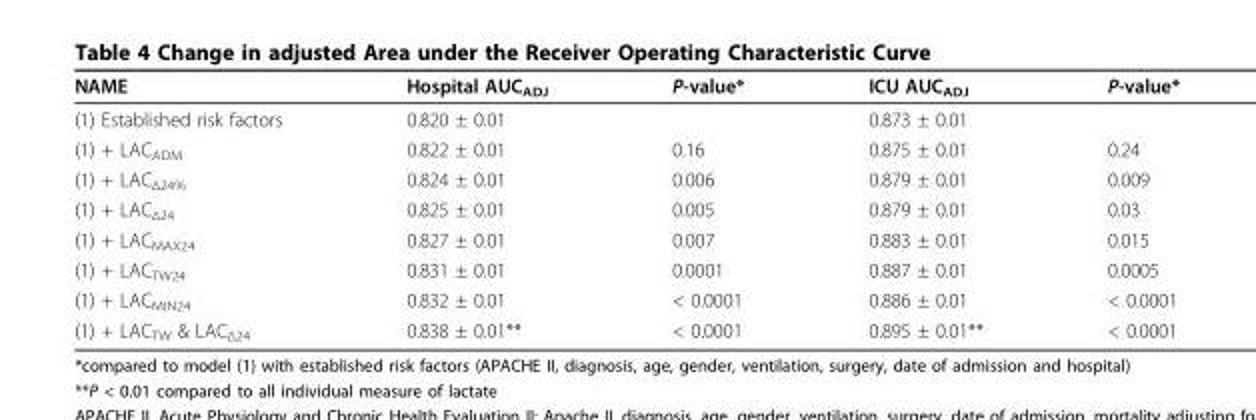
<table><thead><tr><td>NAME</td><td>Hospital AUC<sub>ADJ</sub></td><td>P-value*</td><td>ICU AUC<sub>ADJ</sub></td><td>P-value*</td></tr></thead><tbody><tr><td>(1) Established risk factors</td><td>0.820 ± 0.01</td><td></td><td>0.873 ± 0.01</td><td></td></tr><tr><td>(1) + LAC<sub>ADM</sub></td><td>0.822 ± 0.01</td><td>0.16</td><td>0.875 ± 0.01</td><td>0.24</td></tr><tr><td>(1) + LAC<sub>Δ24%</sub></td><td>0.824 ± 0.01</td><td>0.006</td><td>0.879 ± 0.01</td><td>0.009</td></tr><tr><td>(1) + LAC<sub>Δ24</sub></td><td>0.825 ± 0.01</td><td>0.005</td><td>0.879 ± 0.01</td><td>0.03</td></tr><tr><td>(1) + LAC<sub>MAX24</sub></td><td>0.827 ± 0.01</td><td>0.007</td><td>0.883 ± 0.01</td><td>0.015</td></tr><tr><td>(1) + LAC<sub>TW24</sub></td><td>0.831 ± 0.01</td><td>0.0001</td><td>0.887 ± 0.01</td><td>0.0005</td></tr><tr><td>(1) + LAC<sub>MIN24</sub></td><td>0.832 ± 0.01</td><td>&lt; 0.0001</td><td>0.886 ± 0.01</td><td>&lt; 0.0001</td></tr><tr><td>(1) + LAC<sub>TW</sub> &amp; LAC<sub>Δ24</sub></td><td>0.838 ± 0.01**</td><td>&lt; 0.0001</td><td>0.895 ± 0.01**</td><td>&lt; 0.0001</td></tr></tbody></table>